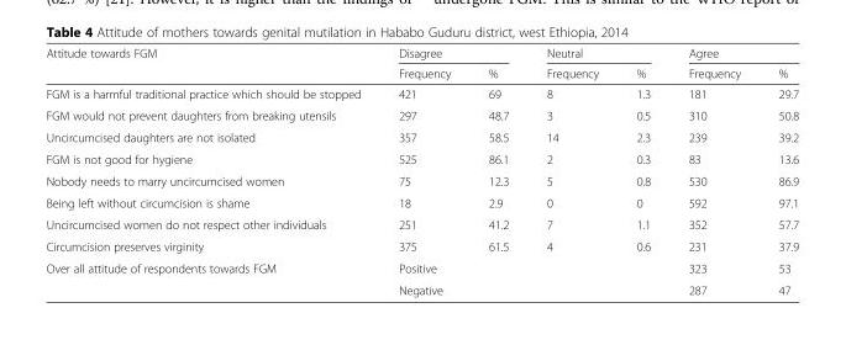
<table><thead><tr><td rowspan="2">Attitude towards FGM</td><td colspan="2">Disagree</td><td colspan="2">Neutral</td><td colspan="2">Agree</td></tr><tr><td>Frequency</td><td>%</td><td>Frequency</td><td>%</td><td>Frequency</td><td>%</td></tr></thead><tbody><tr><td>FGM is a harmful traditional practice which should be stopped</td><td>421</td><td>69</td><td>8</td><td>1.3</td><td>181</td><td>29.7</td></tr><tr><td>FGM would not prevent daughters from breaking utensils</td><td>297</td><td>48.7</td><td>3</td><td>0.5</td><td>310</td><td>50.8</td></tr><tr><td>Uncircumcised daughters are not isolated</td><td>357</td><td>58.5</td><td>14</td><td>2.3</td><td>239</td><td>39.2</td></tr><tr><td>FGM is not good for hygiene</td><td>525</td><td>86.1</td><td>2</td><td>0.3</td><td>83</td><td>13.6</td></tr><tr><td>Nobody needs to marry uncircumcised women</td><td>75</td><td>12.3</td><td>5</td><td>0.8</td><td>530</td><td>86.9</td></tr><tr><td>Being left without circumcision is shame</td><td>18</td><td>2.9</td><td>0</td><td>0</td><td>592</td><td>97.1</td></tr><tr><td>Uncircumcised women do not respect other individuals</td><td>251</td><td>41.2</td><td>7</td><td>1.1</td><td>352</td><td>57.7</td></tr><tr><td>Circumcision preserves virginity</td><td>375</td><td>61.5</td><td>4</td><td>0.6</td><td>231</td><td>37.9</td></tr><tr><td rowspan="2">Over all attitude of respondents towards FGM</td><td colspan="4">Positive</td><td>323</td><td>53</td></tr><tr><td colspan="4">Negative</td><td>287</td><td>47</td></tr></tbody></table>